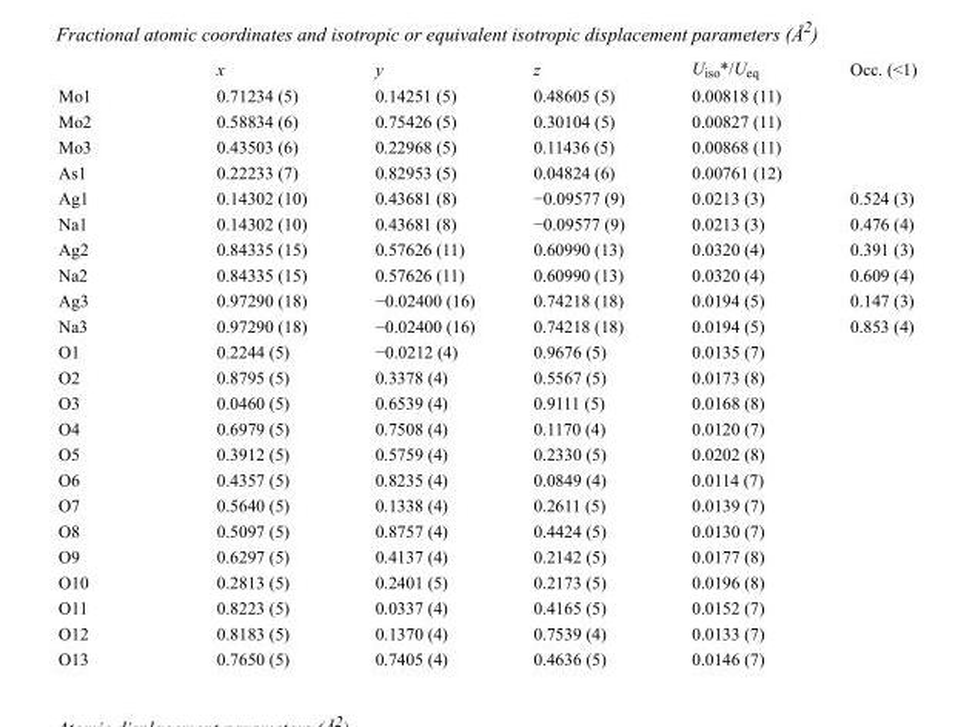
<table><thead><tr><td></td><td>x</td><td>y</td><td>z</td><td>U<sub>iso</sub>*/U<sub>eq</sub></td><td>Occ. (&lt;1)</td></tr></thead><tbody><tr><td>Mo1</td><td>0.71234 (5)</td><td>0.14251 (5)</td><td>0.48605 (5)</td><td>0.00818 (11)</td><td></td></tr><tr><td>Mo2</td><td>0.58834 (6)</td><td>0.75426 (5)</td><td>0.30104 (5)</td><td>0.00827 (11)</td><td></td></tr><tr><td>Mo3</td><td>0.43503 (6)</td><td>0.22968 (5)</td><td>0.11436 (5)</td><td>0.00868 (11)</td><td></td></tr><tr><td>As1</td><td>0.22233 (7)</td><td>0.82953 (5)</td><td>0.04824 (6)</td><td>0.00761 (12)</td><td></td></tr><tr><td>Ag1</td><td>0.14302 (10)</td><td>0.43681 (8)</td><td>−0.09577 (9)</td><td>0.0213 (3)</td><td>0.524 (3)</td></tr><tr><td>Na1</td><td>0.14302 (10)</td><td>0.43681 (8)</td><td>−0.09577 (9)</td><td>0.0213 (3)</td><td>0.476 (4)</td></tr><tr><td>Ag2</td><td>0.84335 (15)</td><td>0.57626 (11)</td><td>0.60990 (13)</td><td>0.0320 (4)</td><td>0.391 (3)</td></tr><tr><td>Na2</td><td>0.84335 (15)</td><td>0.57626 (11)</td><td>0.60990 (13)</td><td>0.0320 (4)</td><td>0.609 (4)</td></tr><tr><td>Ag3</td><td>0.97290 (18)</td><td>−0.02400 (16)</td><td>0.74218 (18)</td><td>0.0194 (5)</td><td>0.147 (3)</td></tr><tr><td>Na3</td><td>0.97290 (18)</td><td>−0.02400 (16)</td><td>0.74218 (18)</td><td>0.0194 (5)</td><td>0.853 (4)</td></tr><tr><td>O1</td><td>0.2244 (5)</td><td>−0.0212 (4)</td><td>0.9676 (5)</td><td>0.0135 (7)</td><td></td></tr><tr><td>O2</td><td>0.8795 (5)</td><td>0.3378 (4)</td><td>0.5567 (5)</td><td>0.0173 (8)</td><td></td></tr><tr><td>O3</td><td>0.0460 (5)</td><td>0.6539 (4)</td><td>0.9111 (5)</td><td>0.0168 (8)</td><td></td></tr><tr><td>O4</td><td>0.6979 (5)</td><td>0.7508 (4)</td><td>0.1170 (4)</td><td>0.0120 (7)</td><td></td></tr><tr><td>O5</td><td>0.3912 (5)</td><td>0.5759 (4)</td><td>0.2330 (5)</td><td>0.0202 (8)</td><td></td></tr><tr><td>O6</td><td>0.4357 (5)</td><td>0.8235 (4)</td><td>0.0849 (4)</td><td>0.0114 (7)</td><td></td></tr><tr><td>O7</td><td>0.5640 (5)</td><td>0.1338 (4)</td><td>0.2611 (5)</td><td>0.0139 (7)</td><td></td></tr><tr><td>O8</td><td>0.5097 (5)</td><td>0.8757 (4)</td><td>0.4424 (5)</td><td>0.0130 (7)</td><td></td></tr><tr><td>O9</td><td>0.6297 (5)</td><td>0.4137 (4)</td><td>0.2142 (5)</td><td>0.0177 (8)</td><td></td></tr><tr><td>O10</td><td>0.2813 (5)</td><td>0.2401 (5)</td><td>0.2173 (5)</td><td>0.0196 (8)</td><td></td></tr><tr><td>O11</td><td>0.8223 (5)</td><td>0.0337 (4)</td><td>0.4165 (5)</td><td>0.0152 (7)</td><td></td></tr><tr><td>O12</td><td>0.8183 (5)</td><td>0.1370 (4)</td><td>0.7539 (4)</td><td>0.0133 (7)</td><td></td></tr><tr><td>O13</td><td>0.7650 (5)</td><td>0.7405 (4)</td><td>0.4636 (5)</td><td>0.0146 (7)</td><td></td></tr></tbody></table>